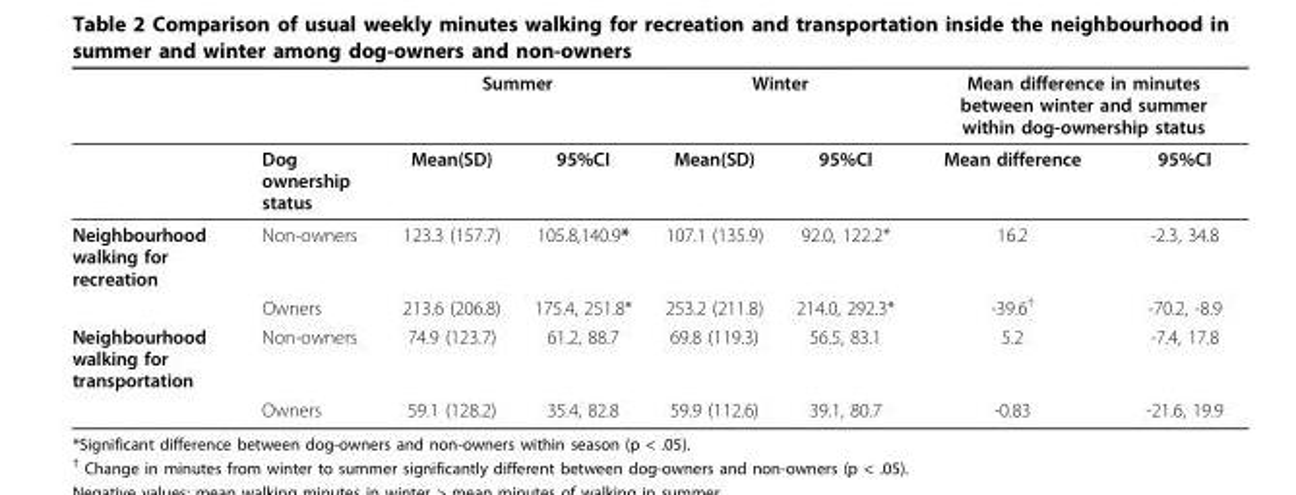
<table><thead><tr><td rowspan="2"></td><td rowspan="2">Dog ownership status</td><td colspan="2">Summer</td><td colspan="2">Winter</td><td colspan="2">Mean difference in minutes between winter and summer within dog-ownership status</td></tr><tr><td>Mean(SD)</td><td>95%CI</td><td>Mean(SD)</td><td>95%CI</td><td>Mean difference</td><td>95%CI</td></tr></thead><tbody><tr><td rowspan="2">Neighbourhood walking for recreation</td><td>Non-owners</td><td>123.3 (157.7)</td><td>105.8,140.9*</td><td>107.1 (135.9)</td><td>92.0, 122.2*</td><td>16.2</td><td>-2.3, 34.8</td></tr><tr><td>Owners</td><td>213.6 (206.8)</td><td>175.4, 251.8*</td><td>253.2 (211.8)</td><td>214.0, 292.3*</td><td>-39.6<sup>†</sup></td><td>-70.2, -8.9</td></tr><tr><td rowspan="2">Neighbourhood walking for transportation</td><td>Non-owners</td><td>74.9 (123.7)</td><td>61.2, 88.7</td><td>69.8 (119.3)</td><td>56.5, 83.1</td><td>5.2</td><td>-7.4, 17.8</td></tr><tr><td>Owners</td><td>59.1 (128.2)</td><td>35.4, 82.8</td><td>59.9 (112.6)</td><td>39.1, 80.7</td><td>-0.83</td><td>-21.6, 19.9</td></tr></tbody></table>